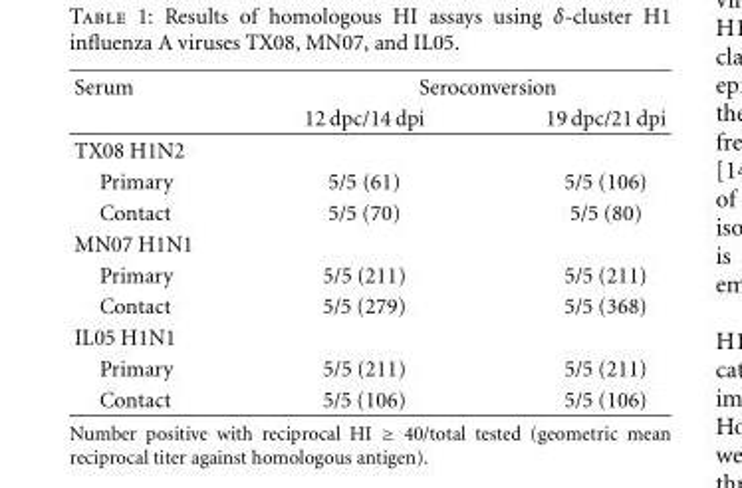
<table><thead><tr><td rowspan="2">Serum</td><td colspan="2">Seroconversion</td></tr><tr><td>12 dpc/14 dpi</td><td>19 dpc/21 dpi</td></tr></thead><tbody><tr><td colspan="3">TX08 H1N2</td></tr><tr><td>Primary</td><td>5/5 (61)</td><td>5/5 (106)</td></tr><tr><td>Contact</td><td>5/5 (70)</td><td>5/5 (80)</td></tr><tr><td colspan="3">MN07 H1N1</td></tr><tr><td>Primary</td><td>5/5 (211)</td><td>5/5 (211)</td></tr><tr><td>Contact</td><td>5/5 (279)</td><td>5/5 (368)</td></tr><tr><td colspan="3">IL05 H1N1</td></tr><tr><td>Primary</td><td>5/5 (211)</td><td>5/5 (211)</td></tr><tr><td>Contact</td><td>5/5 (106)</td><td>5/5 (106)</td></tr></tbody></table>